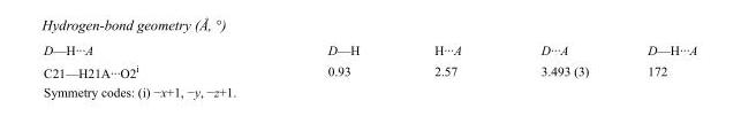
<table><tbody><tr><td>D—H···A</td><td>D—H</td><td>H···A</td><td>D···A</td><td>D—H···A</td></tr><tr><td>C21—H21A···O2<sup>i</sup></td><td>0.93</td><td>2.57</td><td>3.493 (3)</td><td>172</td></tr></tbody></table>